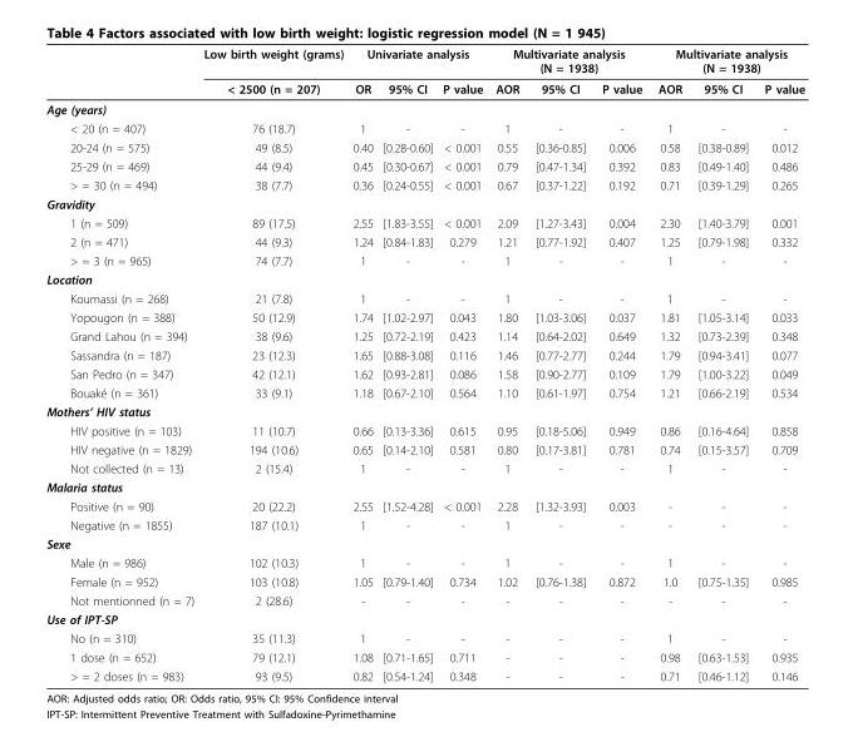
<table><thead><tr><td rowspan="2"></td><td rowspan="2">Low birth weight (grams) &lt; 2500 (n = 207)</td><td colspan="3">Univariate analysis</td><td colspan="3">Multivariate analysis (N = 1938)</td><td colspan="3">Multivariate analysis (N = 1938)</td></tr><tr><td>OR</td><td>95% CI</td><td>P value</td><td>AOR</td><td>95% CI</td><td>P value</td><td>AOR</td><td>95% CI</td><td>P value</td></tr></thead><tbody><tr><td colspan="11">Age (years)</td></tr><tr><td>&lt; 20 (n = 407)</td><td>76 (18.7)</td><td>1</td><td>-</td><td>-</td><td>1</td><td>-</td><td>-</td><td>1</td><td>-</td><td>-</td></tr><tr><td>20-24 (n = 575)</td><td>49 (8.5)</td><td>0.40</td><td>[0.28-0.60]</td><td>&lt; 0.001</td><td>0.55</td><td>[0.36-0.85]</td><td>0.006</td><td>0.58</td><td>[0.38-0.89]</td><td>0.012</td></tr><tr><td>25-29 (n = 469)</td><td>44 (9.4)</td><td>0.45</td><td>[0.30-0.67]</td><td>&lt; 0.001</td><td>0.79</td><td>[0.47-1.34]</td><td>0.392</td><td>0.83</td><td>[0.49-1.40]</td><td>0.486</td></tr><tr><td>&gt; = 30 (n = 494)</td><td>38 (7.7)</td><td>0.36</td><td>[0.24-0.55]</td><td>&lt; 0.001</td><td>0.67</td><td>[0.37-1.22]</td><td>0.192</td><td>0.71</td><td>[0.39-1.29]</td><td>0.265</td></tr><tr><td colspan="11">Gravidity</td></tr><tr><td>1 (n = 509)</td><td>89 (17.5)</td><td>2.55</td><td>[1.83-3.55]</td><td>&lt; 0.001</td><td>2.09</td><td>[1.27-3.43]</td><td>0.004</td><td>2.30</td><td>[1.40-3.79]</td><td>0.001</td></tr><tr><td>2 (n = 471)</td><td>44 (9.3)</td><td>1.24</td><td>[0.84-1.83]</td><td>0.279</td><td>1.21</td><td>[0.77-1.92]</td><td>0.407</td><td>1.25</td><td>[0.79-1.98]</td><td>0.332</td></tr><tr><td>&gt; = 3 (n = 965)</td><td>74 (7.7)</td><td>1</td><td>-</td><td>-</td><td>1</td><td>-</td><td>-</td><td>1</td><td>-</td><td>-</td></tr><tr><td colspan="11">Location</td></tr><tr><td>Koumassi (n = 268)</td><td>21 (7.8)</td><td>1</td><td>-</td><td>-</td><td>1</td><td>-</td><td>-</td><td>1</td><td>-</td><td>-</td></tr><tr><td>Yopougon (n = 388)</td><td>50 (12.9)</td><td>1.74</td><td>[1.02-2.97]</td><td>0.043</td><td>1.80</td><td>[1.03-3.06]</td><td>0.037</td><td>1.81</td><td>[1.05-3.14]</td><td>0.033</td></tr><tr><td>Grand Lahou (n = 394)</td><td>38 (9.6)</td><td>1.25</td><td>[0.72-2.19]</td><td>0.423</td><td>1.14</td><td>[0.64-2.02]</td><td>0.649</td><td>1.32</td><td>[0.73-2.39]</td><td>0.348</td></tr><tr><td>Sassandra (n = 187)</td><td>23 (12.3)</td><td>1.65</td><td>[0.88-3.08]</td><td>0.116</td><td>1.46</td><td>[0.77-2.77]</td><td>0.244</td><td>1.79</td><td>[0.94-3.41]</td><td>0.077</td></tr><tr><td>San Pedro (n = 347)</td><td>42 (12.1)</td><td>1.62</td><td>[0.93-2.81]</td><td>0.086</td><td>1.58</td><td>[0.90-2.77]</td><td>0.109</td><td>1.79</td><td>[1.00-3.22]</td><td>0.049</td></tr><tr><td>Bouaké (n = 361)</td><td>33 (9.1)</td><td>1.18</td><td>[0.67-2.10]</td><td>0.564</td><td>1.10</td><td>[0.61-1.97]</td><td>0.754</td><td>1.21</td><td>[0.66-2.19]</td><td>0.534</td></tr><tr><td colspan="11">Mothers’ HIV status</td></tr><tr><td>HIV positive (n = 103)</td><td>11 (10.7)</td><td>0.66</td><td>[0.13-3.36]</td><td>0.615</td><td>0.95</td><td>[0.18-5.06]</td><td>0.949</td><td>0.86</td><td>[0.16-4.64]</td><td>0.858</td></tr><tr><td>HIV negative (n = 1829)</td><td>194 (10.6)</td><td>0.65</td><td>[0.14-2.10]</td><td>0.581</td><td>0.80</td><td>[0.17-3.81]</td><td>0.781</td><td>0.74</td><td>[0.15-3.57]</td><td>0.709</td></tr><tr><td>Not collected (n = 13)</td><td>2 (15.4)</td><td>1</td><td>-</td><td>-</td><td>1</td><td>-</td><td>-</td><td>1</td><td>-</td><td>-</td></tr><tr><td colspan="11">Malaria status</td></tr><tr><td>Positive (n = 90)</td><td>20 (22.2)</td><td>2.55</td><td>[1.52-4.28]</td><td>&lt; 0.001</td><td>2.28</td><td>[1.32-3.93]</td><td>0.003</td><td>-</td><td>-</td><td>-</td></tr><tr><td>Negative (n = 1855)</td><td>187 (10.1)</td><td>1</td><td>-</td><td>-</td><td>1</td><td>-</td><td>-</td><td>-</td><td>-</td><td>-</td></tr><tr><td colspan="11">Sexe</td></tr><tr><td>Male (n = 986)</td><td>102 (10.3)</td><td>1</td><td>-</td><td>-</td><td>1</td><td>-</td><td>-</td><td>1</td><td>-</td><td>-</td></tr><tr><td>Female (n = 952)</td><td>103 (10.8)</td><td>1.05</td><td>[0.79-1.40]</td><td>0.734</td><td>1.02</td><td>[0.76-1.38]</td><td>0.872</td><td>1.0</td><td>[0.75-1.35]</td><td>0.985</td></tr><tr><td>Not mentionned (n = 7)</td><td>2 (28.6)</td><td>-</td><td>-</td><td>-</td><td>-</td><td>-</td><td>-</td><td>-</td><td>-</td><td>-</td></tr><tr><td colspan="11">Use of IPT-SP</td></tr><tr><td>No (n = 310)</td><td>35 (11.3)</td><td>1</td><td>-</td><td>-</td><td>-</td><td>-</td><td>-</td><td>1</td><td>-</td><td>-</td></tr><tr><td>1 dose (n = 652)</td><td>79 (12.1)</td><td>1.08</td><td>[0.71-1.65]</td><td>0.711</td><td>-</td><td>-</td><td>-</td><td>0.98</td><td>[0.63-1.53]</td><td>0.935</td></tr><tr><td>&gt; = 2 doses (n = 983)</td><td>93 (9.5)</td><td>0.82</td><td>[0.54-1.24]</td><td>0.348</td><td>-</td><td>-</td><td>-</td><td>0.71</td><td>[0.46-1.12]</td><td>0.146</td></tr></tbody></table>